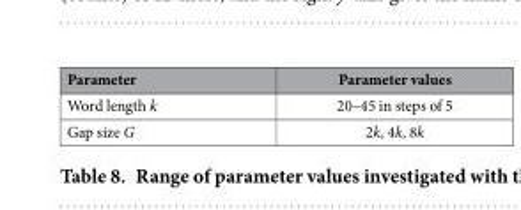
<table><thead><tr><td>Parameter</td><td>Parameter values</td></tr></thead><tbody><tr><td>Word length k</td><td>20–45 in steps of 5</td></tr><tr><td>Gap size G</td><td>2k, 4k, 8k</td></tr></tbody></table>